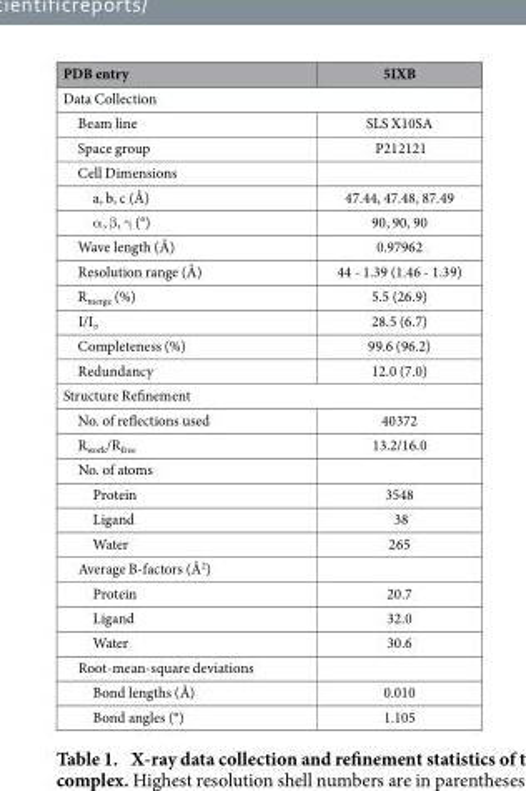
<table><thead><tr><td>PDB entry</td><td>5IXB</td></tr></thead><tbody><tr><td colspan="2">Data Collection</td></tr><tr><td>Beam line</td><td>SLS X10SA</td></tr><tr><td>Space group</td><td>P212121</td></tr><tr><td colspan="2">Cell Dimensions</td></tr><tr><td>a, b, c (Å)</td><td>47.44, 47.48, 87.49</td></tr><tr><td>α , β , γ (°)</td><td>90, 90, 90</td></tr><tr><td>Wave length (Å)</td><td>0.97962</td></tr><tr><td>Resolution range (Å)</td><td>44 - 1.39 (1.46 - 1.39)</td></tr><tr><td>R<sub>merge</sub> (%)</td><td>5.5 (26.9)</td></tr><tr><td>I/I<sub>σ</sub></td><td>28.5 (6.7)</td></tr><tr><td>Completeness (%)</td><td>99.6 (96.2)</td></tr><tr><td>Redundancy</td><td>12.0 (7.0)</td></tr><tr><td colspan="2">Structure Refinement</td></tr><tr><td>No. of reflections used</td><td>40372</td></tr><tr><td>R<sub>work</sub>/R<sub>free</sub></td><td>13.2/16.0</td></tr><tr><td colspan="2">No. of atoms</td></tr><tr><td>Protein</td><td>3548</td></tr><tr><td>Ligand</td><td>38</td></tr><tr><td>Water</td><td>265</td></tr><tr><td colspan="2">Average B-factors (Å<sup>2</sup>)</td></tr><tr><td>Protein</td><td>20.7</td></tr><tr><td>Ligand</td><td>32.0</td></tr><tr><td>Water</td><td>30.6</td></tr><tr><td colspan="2">Root-mean-square deviations</td></tr><tr><td>Bond lengths (Å)</td><td>0.010</td></tr><tr><td>Bond angles (°)</td><td>1.105</td></tr></tbody></table>